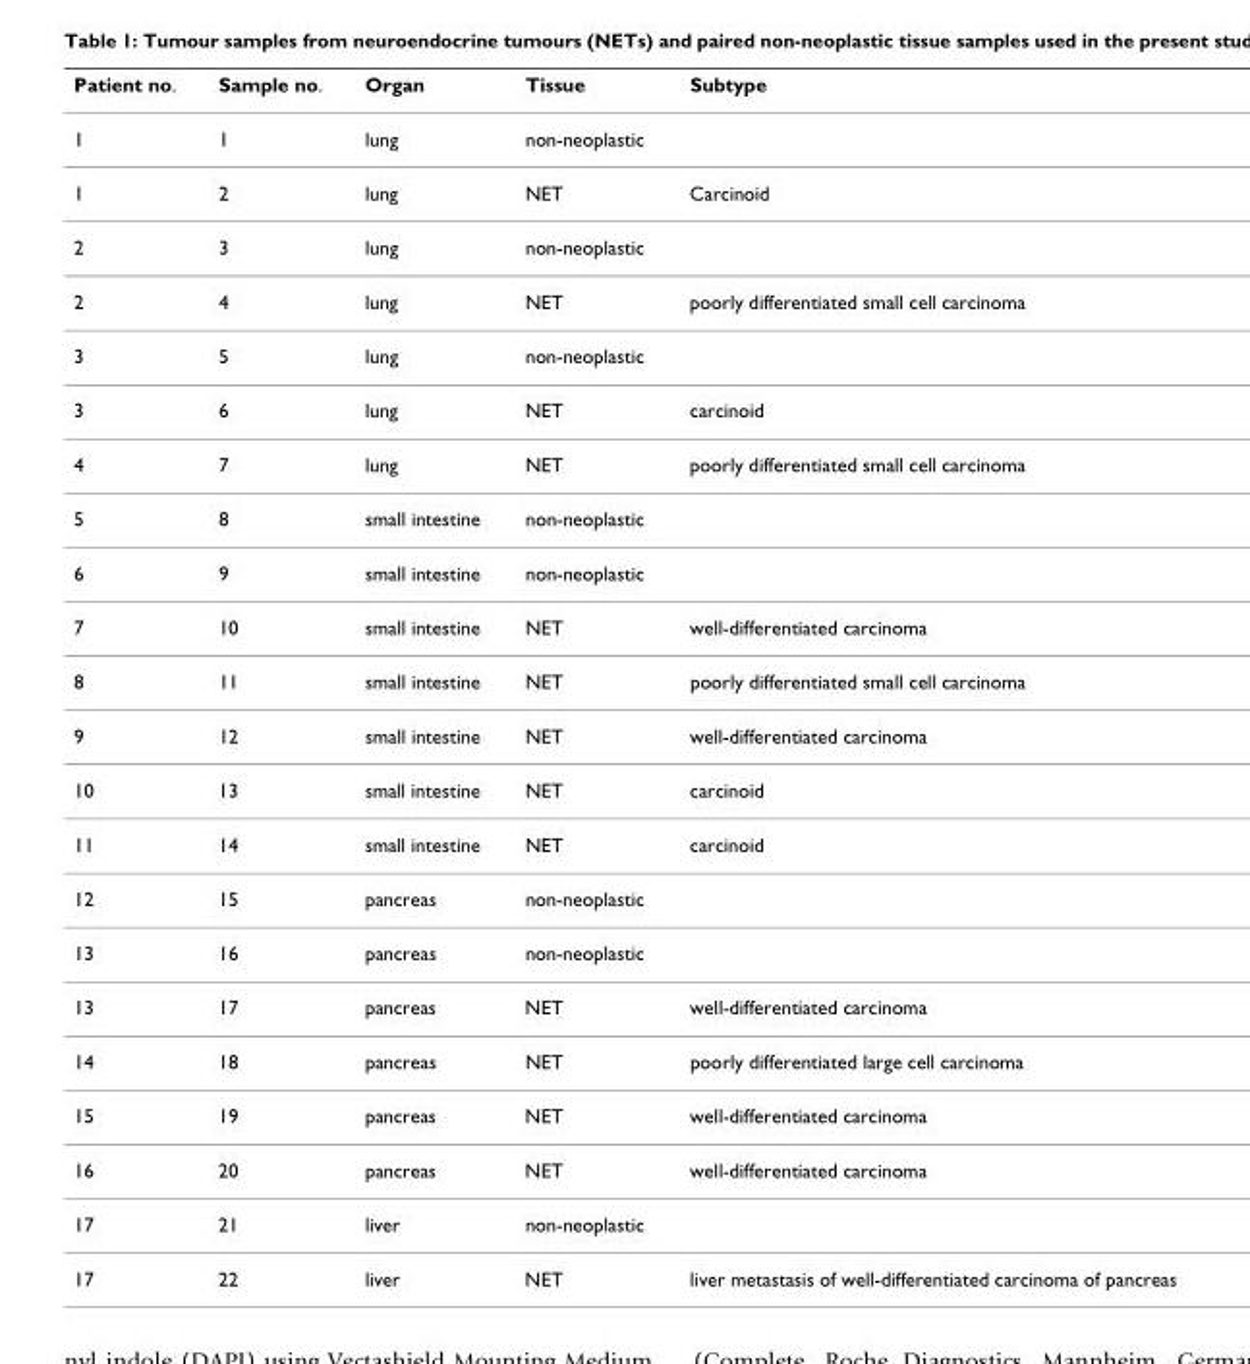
<table><thead><tr><td>Patient no.</td><td>Sample no.</td><td>Organ</td><td>Tissue</td><td>Subtype</td></tr></thead><tbody><tr><td>1</td><td>1</td><td>lung</td><td>non-neoplastic</td><td></td></tr><tr><td>1</td><td>2</td><td>lung</td><td>NET</td><td>Carcinoid</td></tr><tr><td>2</td><td>3</td><td>lung</td><td>non-neoplastic</td><td></td></tr><tr><td>2</td><td>4</td><td>lung</td><td>NET</td><td>poorly differentiated small cell carcinoma</td></tr><tr><td>3</td><td>5</td><td>lung</td><td>non-neoplastic</td><td></td></tr><tr><td>3</td><td>6</td><td>lung</td><td>NET</td><td>carcinoid</td></tr><tr><td>4</td><td>7</td><td>lung</td><td>NET</td><td>poorly differentiated small cell carcinoma</td></tr><tr><td>5</td><td>8</td><td>small intestine</td><td>non-neoplastic</td><td></td></tr><tr><td>6</td><td>9</td><td>small intestine</td><td>non-neoplastic</td><td></td></tr><tr><td>7</td><td>10</td><td>small intestine</td><td>NET</td><td>well-differentiated carcinoma</td></tr><tr><td>8</td><td>11</td><td>small intestine</td><td>NET</td><td>poorly differentiated small cell carcinoma</td></tr><tr><td>9</td><td>12</td><td>small intestine</td><td>NET</td><td>well-differentiated carcinoma</td></tr><tr><td>10</td><td>13</td><td>small intestine</td><td>NET</td><td>carcinoid</td></tr><tr><td>11</td><td>14</td><td>small intestine</td><td>NET</td><td>carcinoid</td></tr><tr><td>12</td><td>15</td><td>pancreas</td><td>non-neoplastic</td><td></td></tr><tr><td>13</td><td>16</td><td>pancreas</td><td>non-neoplastic</td><td></td></tr><tr><td>13</td><td>17</td><td>pancreas</td><td>NET</td><td>well-differentiated carcinoma</td></tr><tr><td>14</td><td>18</td><td>pancreas</td><td>NET</td><td>poorly differentiated large cell carcinoma</td></tr><tr><td>15</td><td>19</td><td>pancreas</td><td>NET</td><td>well-differentiated carcinoma</td></tr><tr><td>16</td><td>20</td><td>pancreas</td><td>NET</td><td>well-differentiated carcinoma</td></tr><tr><td>17</td><td>21</td><td>liver</td><td>non-neoplastic</td><td></td></tr><tr><td>17</td><td>22</td><td>liver</td><td>NET</td><td>liver metastasis of well-differentiated carcinoma of pancreas</td></tr></tbody></table>